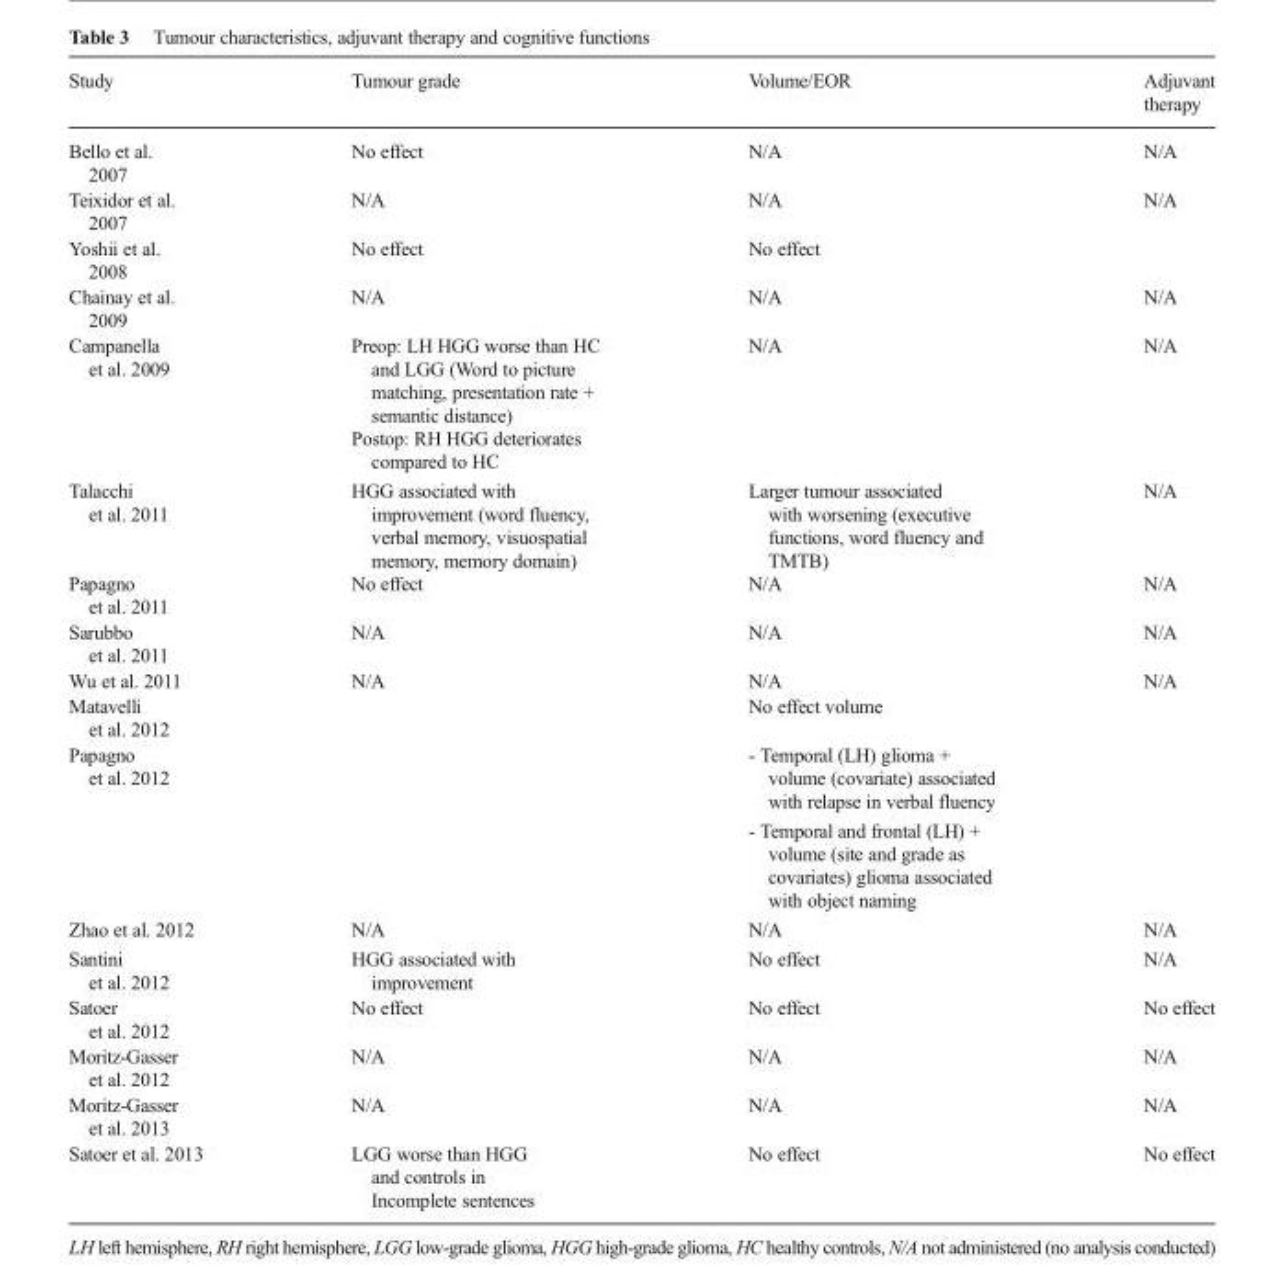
<table><thead><tr><td>Study</td><td>Tumour grade</td><td>Volume/EOR</td><td>Adjuvant therapy</td></tr></thead><tbody><tr><td>Bello et al. 2007</td><td>No effect</td><td>N/A</td><td>N/A</td></tr><tr><td>Teixidor et al. 2007</td><td>N/A</td><td>N/A</td><td rowspan="2">N/A</td></tr><tr><td>Yoshii et al. 2008</td><td>No effect</td><td>No effect</td></tr><tr><td>Chainay et al. 2009</td><td>N/A</td><td>N/A</td><td>N/A</td></tr><tr><td rowspan="2">Campanella et al. 2009</td><td>Preop: LH HGG worse than HC and LGG (Word to picture matching, presentation rate + semantic distance)</td><td rowspan="2">N/A</td><td rowspan="2">N/A</td></tr><tr><td>Postop: RH HGG deteriorates compared to HC</td></tr><tr><td>Talacchi et al. 2011</td><td>HGG associated with improvement (word fluency, verbal memory, visuospatial memory, memory domain)</td><td>Larger tumour associated with worsening (executive functions, word fluency and TMTB)</td><td>N/A</td></tr><tr><td>Papagno et al. 2011</td><td>No effect</td><td>N/A</td><td>N/A</td></tr><tr><td>Sarubbo et al. 2011</td><td>N/A</td><td>N/A</td><td>N/A</td></tr><tr><td>Wu et al. 2011</td><td>N/A</td><td>N/A</td><td rowspan="4">N/A</td></tr><tr><td>Matavelli et al. 2012</td><td></td><td>No effect volume</td></tr><tr><td rowspan="2">Papagno et al. 2012</td><td></td><td>- Temporal (LH) glioma + volume (covariate) associated with relapse in verbal fluency</td></tr><tr><td></td><td>- Temporal and frontal (LH) + volume (site and grade as covariates) glioma associated with object naming</td></tr><tr><td>Zhao et al. 2012</td><td>N/A</td><td>N/A</td><td>N/A</td></tr><tr><td>Santini et al. 2012</td><td>HGG associated with improvement</td><td>No effect</td><td>N/A</td></tr><tr><td>Satoer et al. 2012</td><td>No effect</td><td>No effect</td><td>No effect</td></tr><tr><td>Moritz-Gasser et al. 2012</td><td>N/A</td><td>N/A</td><td>N/A</td></tr><tr><td>Moritz-Gasser et al. 2013</td><td>N/A</td><td>N/A</td><td>N/A</td></tr><tr><td>Satoer et al. 2013</td><td>LGG worse than HGG and controls in Incomplete sentences</td><td>No effect</td><td>No effect</td></tr></tbody></table>